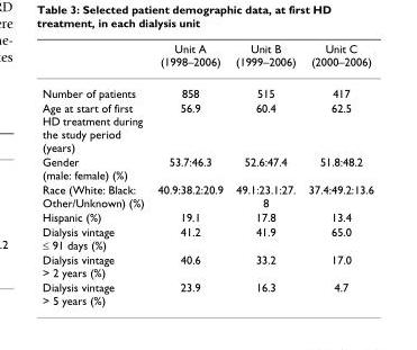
<table><thead><tr><td></td><td>Unit A (1998–2006)</td><td>Unit B (1999–2006)</td><td>Unit C (2000–2006)</td></tr></thead><tbody><tr><td>Number of patients</td><td>858</td><td>515</td><td>417</td></tr><tr><td>Age at start of first HD treatment during the study period (years)</td><td>56.9</td><td>60.4</td><td>62.5</td></tr><tr><td>Gender (male: female) (%)</td><td>53.7:46.3</td><td>52.6:47.4</td><td>51.8:48.2</td></tr><tr><td>Race (White: Black: Other/Unknown) (%)</td><td>40.9:38.2:20.9</td><td>49.1:23.1:27. 8</td><td>37.4:49.2:13.6</td></tr><tr><td>Hispanic (%)</td><td>19.1</td><td>17.8</td><td>13.4</td></tr><tr><td>Dialysis vintage ≤ 91 days (%)</td><td>41.2</td><td>41.9</td><td>65.0</td></tr><tr><td>Dialysis vintage &gt; 2 years (%)</td><td>40.6</td><td>33.2</td><td>17.0</td></tr><tr><td>Dialysis vintage &gt; 5 years (%)</td><td>23.9</td><td>16.3</td><td>4.7</td></tr></tbody></table>